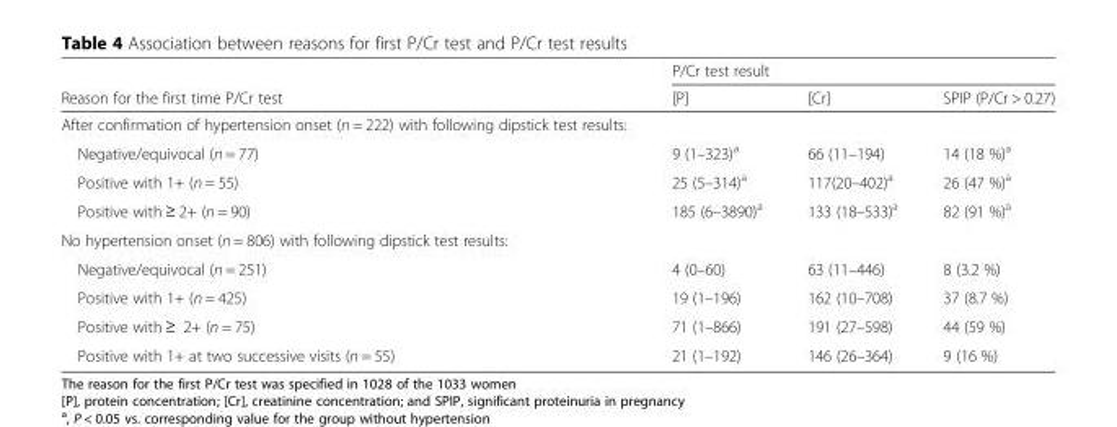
<table><thead><tr><td rowspan="2">Reason for the first time P/Cr test</td><td colspan="3">P/Cr test result</td></tr><tr><td>[P]</td><td>[Cr]</td><td>SPIP (P/Cr &gt; 0.27)</td></tr></thead><tbody><tr><td colspan="4">After confirmation of hypertension onset (n = 222) with following dipstick test results:</td></tr><tr><td>Negative/equivocal (n = 77)</td><td>9 (1–323)<sup>a</sup></td><td>66 (11–194)</td><td>14 (18 %)<sup>a</sup></td></tr><tr><td>Positive with 1+ (n = 55)</td><td>25 (5–314)<sup>a</sup></td><td>117(20–402)<sup>a</sup></td><td>26 (47 %)<sup>a</sup></td></tr><tr><td>Positive with ≥ 2+ (n = 90)</td><td>185 (6–3890)<sup>a</sup></td><td>133 (18–533)<sup>a</sup></td><td>82 (91 %)<sup>a</sup></td></tr><tr><td colspan="4">No hypertension onset (n = 806) with following dipstick test results:</td></tr><tr><td>Negative/equivocal (n = 251)</td><td>4 (0–60)</td><td>63 (11–446)</td><td>8 (3.2 %)</td></tr><tr><td>Positive with 1+ (n = 425)</td><td>19 (1–196)</td><td>162 (10–708)</td><td>37 (8.7 %)</td></tr><tr><td>Positive with ≥ 2+ (n = 75)</td><td>71 (1–866)</td><td>191 (27–598)</td><td>44 (59 %)</td></tr><tr><td>Positive with 1+ at two successive visits (n = 55)</td><td>21 (1–192)</td><td>146 (26–364)</td><td>9 (16 %)</td></tr></tbody></table>